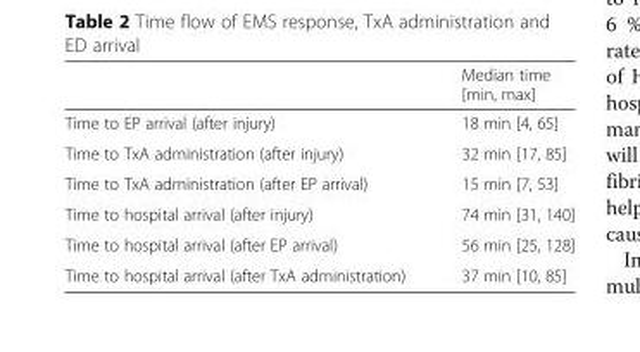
<table><thead><tr><td></td><td>Median time [min, max]</td></tr></thead><tbody><tr><td>Time to EP arrival (after injury)</td><td>18 min [4, 65]</td></tr><tr><td>Time to TxA administration (after injury)</td><td>32 min [17, 85]</td></tr><tr><td>Time to TxA administration (after EP arrival)</td><td>15 min [7, 53]</td></tr><tr><td>Time to hospital arrival (after injury)</td><td>74 min [31, 140]</td></tr><tr><td>Time to hospital arrival (after EP arrival)</td><td>56 min [25, 128]</td></tr><tr><td>Time to hospital arrival (after TxA administration)</td><td>37 min [10, 85]</td></tr></tbody></table>